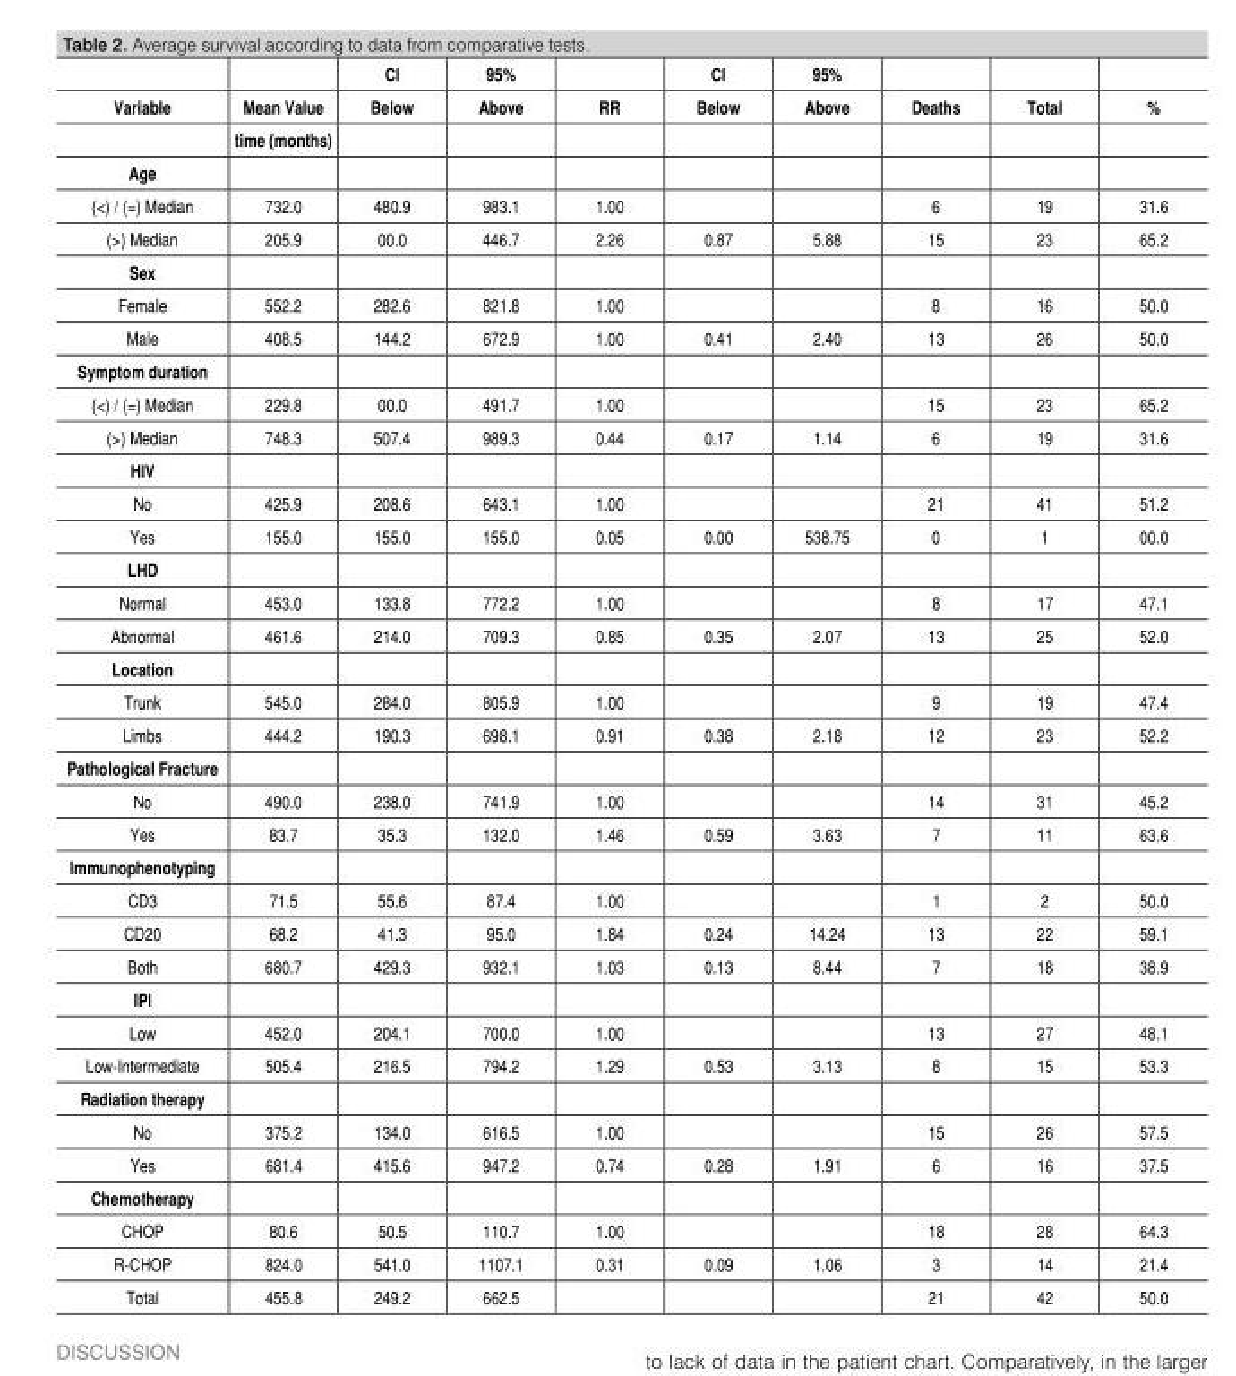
<table><thead><tr><td></td><td></td><td>CI</td><td>95%</td><td></td><td>CI</td><td>95%</td><td></td><td></td><td></td></tr></thead><tbody><tr><td rowspan="2">Variable</td><td>Mean Value</td><td>Below</td><td>Above</td><td>RR</td><td>Below</td><td>Above</td><td>Deaths</td><td>Total</td><td>%</td></tr><tr><td>time (months)</td><td></td><td></td><td></td><td></td><td></td><td></td><td></td><td></td></tr><tr><td colspan="10">Age</td></tr><tr><td>(&lt;) / (=) Median</td><td>732.0</td><td>480.9</td><td>983.1</td><td>1.00</td><td></td><td></td><td>6</td><td>19</td><td>31.6</td></tr><tr><td>(&gt;) Median</td><td>205.9</td><td>00.0</td><td>446.7</td><td>2.26</td><td>0.87</td><td>5.88</td><td>15</td><td>23</td><td>65.2</td></tr><tr><td colspan="10">Sex</td></tr><tr><td>Female</td><td>552.2</td><td>282.6</td><td>821.8</td><td>1.00</td><td></td><td></td><td>8</td><td>16</td><td>50.0</td></tr><tr><td>Male</td><td>408.5</td><td>144.2</td><td>672.9</td><td>1.00</td><td>0.41</td><td>2.40</td><td>13</td><td>26</td><td>50.0</td></tr><tr><td colspan="10">Symptom duration</td></tr><tr><td>(&lt;) / (=) Median</td><td>229.8</td><td>00.0</td><td>491.7</td><td>1.00</td><td></td><td></td><td>15</td><td>23</td><td>65.2</td></tr><tr><td>(&gt;) Median</td><td>748.3</td><td>507.4</td><td>989.3</td><td>0.44</td><td>0.17</td><td>1.14</td><td>6</td><td>19</td><td>31.6</td></tr><tr><td colspan="10">HIV</td></tr><tr><td>No</td><td>425.9</td><td>208.6</td><td>643.1</td><td>1.00</td><td></td><td></td><td>21</td><td>41</td><td>51.2</td></tr><tr><td>Yes</td><td>155.0</td><td>155.0</td><td>155.0</td><td>0.05</td><td>0.00</td><td>538.75</td><td>0</td><td>1</td><td>00.0</td></tr><tr><td colspan="10">LHD</td></tr><tr><td>Normal</td><td>453.0</td><td>133.8</td><td>772.2</td><td>1.00</td><td></td><td></td><td>8</td><td>17</td><td>47.1</td></tr><tr><td>Abnormal</td><td>461.6</td><td>214.0</td><td>709.3</td><td>0.85</td><td>0.35</td><td>2.07</td><td>13</td><td>25</td><td>52.0</td></tr><tr><td colspan="10">Location</td></tr><tr><td>Trunk</td><td>545.0</td><td>284.0</td><td>805.9</td><td>1.00</td><td></td><td></td><td>9</td><td>19</td><td>47.4</td></tr><tr><td>Limbs</td><td>444.2</td><td>190.3</td><td>698.1</td><td>0.91</td><td>0.38</td><td>2.18</td><td>12</td><td>23</td><td>52.2</td></tr><tr><td colspan="10">Pathological Fracture</td></tr><tr><td>No</td><td>490.0</td><td>238.0</td><td>741.9</td><td>1.00</td><td></td><td></td><td>14</td><td>31</td><td>45.2</td></tr><tr><td>Yes</td><td>83.7</td><td>35.3</td><td>132.0</td><td>1.46</td><td>0.59</td><td>3.63</td><td>7</td><td>11</td><td>63.6</td></tr><tr><td colspan="10">Immunophenotyping</td></tr><tr><td>CD3</td><td>71.5</td><td>55.6</td><td>87.4</td><td>1.00</td><td></td><td></td><td>1</td><td>2</td><td>50.0</td></tr><tr><td>CD20</td><td>68.2</td><td>41.3</td><td>95.0</td><td>1.84</td><td>0.24</td><td>14.24</td><td>13</td><td>22</td><td>59.1</td></tr><tr><td>Both</td><td>680.7</td><td>429.3</td><td>932.1</td><td>1.03</td><td>0.13</td><td>8.44</td><td>7</td><td>18</td><td>38.9</td></tr><tr><td colspan="10">IPI</td></tr><tr><td>Low</td><td>452.0</td><td>204.1</td><td>700.0</td><td>1.00</td><td></td><td></td><td>13</td><td>27</td><td>48.1</td></tr><tr><td>Low-Intermediate</td><td>505.4</td><td>216.5</td><td>794.2</td><td>1.29</td><td>0.53</td><td>3.13</td><td>8</td><td>15</td><td>53.3</td></tr><tr><td colspan="10">Radiation therapy</td></tr><tr><td>No</td><td>375.2</td><td>134.0</td><td>616.5</td><td>1.00</td><td></td><td></td><td>15</td><td>26</td><td>57.5</td></tr><tr><td>Yes</td><td>681.4</td><td>415.6</td><td>947.2</td><td>0.74</td><td>0.28</td><td>1.91</td><td>6</td><td>16</td><td>37.5</td></tr><tr><td colspan="10">Chemotherapy</td></tr><tr><td>CHOP</td><td>80.6</td><td>50.5</td><td>110.7</td><td>1.00</td><td></td><td></td><td>18</td><td>28</td><td>64.3</td></tr><tr><td>R-CHOP</td><td>824.0</td><td>541.0</td><td>1107.1</td><td>0.31</td><td>0.09</td><td>1.06</td><td>3</td><td>14</td><td>21.4</td></tr><tr><td>Total</td><td>455.8</td><td>249.2</td><td>662.5</td><td></td><td></td><td></td><td>21</td><td>42</td><td>50.0</td></tr></tbody></table>